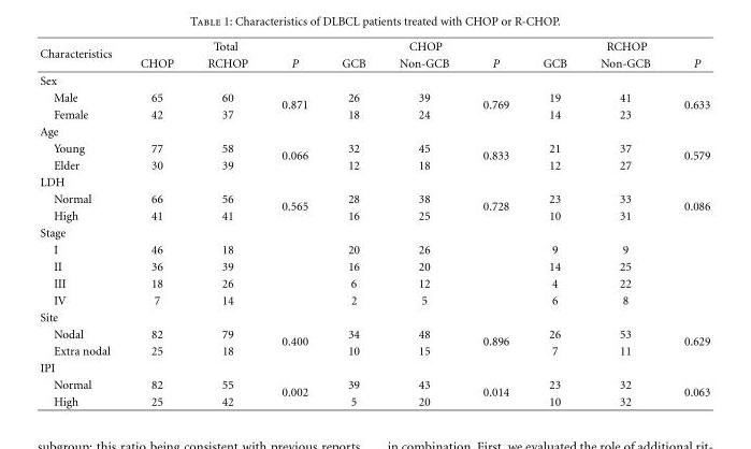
<table><thead><tr><td rowspan="2">Characteristics</td><td colspan="3">Total</td><td colspan="3">CHOP</td><td colspan="3">RCHOP</td></tr><tr><td>CHOP</td><td>RCHOP</td><td>P</td><td>GCB</td><td>Non-GCB</td><td>P</td><td>GCB</td><td>Non-GCB</td><td>P</td></tr></thead><tbody><tr><td colspan="10">Sex</td></tr><tr><td>Male</td><td>65</td><td>60</td><td rowspan="2">0.871</td><td>26</td><td>39</td><td rowspan="2">0.769</td><td>19</td><td>41</td><td rowspan="2">0.633</td></tr><tr><td>Female</td><td>42</td><td>37</td><td>18</td><td>24</td><td>14</td><td>23</td></tr><tr><td colspan="10">Age</td></tr><tr><td>Young</td><td>77</td><td>58</td><td rowspan="2">0.066</td><td>32</td><td>45</td><td rowspan="2">0.833</td><td>21</td><td>37</td><td rowspan="2">0.579</td></tr><tr><td>Elder</td><td>30</td><td>39</td><td>12</td><td>18</td><td>12</td><td>27</td></tr><tr><td colspan="10">LDH</td></tr><tr><td>Normal</td><td>66</td><td>56</td><td rowspan="2">0.565</td><td>28</td><td>38</td><td rowspan="2">0.728</td><td>23</td><td>33</td><td rowspan="2">0.086</td></tr><tr><td>High</td><td>41</td><td>41</td><td>16</td><td>25</td><td>10</td><td>31</td></tr><tr><td colspan="10">Stage</td></tr><tr><td>I</td><td>46</td><td>18</td><td></td><td>20</td><td>26</td><td></td><td>9</td><td>9</td><td></td></tr><tr><td>II</td><td>36</td><td>39</td><td></td><td>16</td><td>20</td><td></td><td>14</td><td>25</td><td></td></tr><tr><td>III</td><td>18</td><td>26</td><td></td><td>6</td><td>12</td><td></td><td>4</td><td>22</td><td></td></tr><tr><td>IV</td><td>7</td><td>14</td><td></td><td>2</td><td>5</td><td></td><td>6</td><td>8</td><td></td></tr><tr><td colspan="10">Site</td></tr><tr><td>Nodal</td><td>82</td><td>79</td><td rowspan="2">0.400</td><td>34</td><td>48</td><td rowspan="2">0.896</td><td>26</td><td>53</td><td rowspan="2">0.629</td></tr><tr><td>Extra nodal</td><td>25</td><td>18</td><td>10</td><td>15</td><td>7</td><td>11</td></tr><tr><td colspan="10">IPI</td></tr><tr><td>Normal</td><td>82</td><td>55</td><td rowspan="2">0.002</td><td>39</td><td>43</td><td rowspan="2">0.014</td><td>23</td><td>32</td><td rowspan="2">0.063</td></tr><tr><td>High</td><td>25</td><td>42</td><td>5</td><td>20</td><td>10</td><td>32</td></tr></tbody></table>